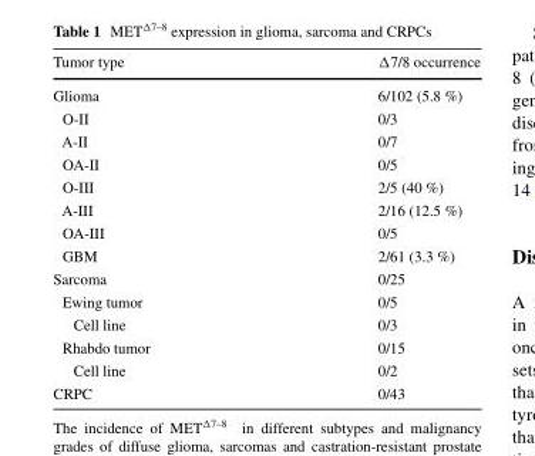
<table><thead><tr><td>Tumor type</td><td>Δ7/8 occurrence</td></tr></thead><tbody><tr><td>Glioma</td><td>6/102 (5.8 %)</td></tr><tr><td>O-II</td><td>0/3</td></tr><tr><td>A-II</td><td>0/7</td></tr><tr><td>OA-II</td><td>0/5</td></tr><tr><td>O-III</td><td>2/5 (40 %)</td></tr><tr><td>A-III</td><td>2/16 (12.5 %)</td></tr><tr><td>OA-III</td><td>0/5</td></tr><tr><td>GBM</td><td>2/61 (3.3 %)</td></tr><tr><td>Sarcoma</td><td>0/25</td></tr><tr><td>Ewing tumor</td><td>0/5</td></tr><tr><td>Cell line</td><td>0/3</td></tr><tr><td>Rhabdo tumor</td><td>0/15</td></tr><tr><td>Cell line</td><td>0/2</td></tr><tr><td>CRPC</td><td>0/43</td></tr></tbody></table>